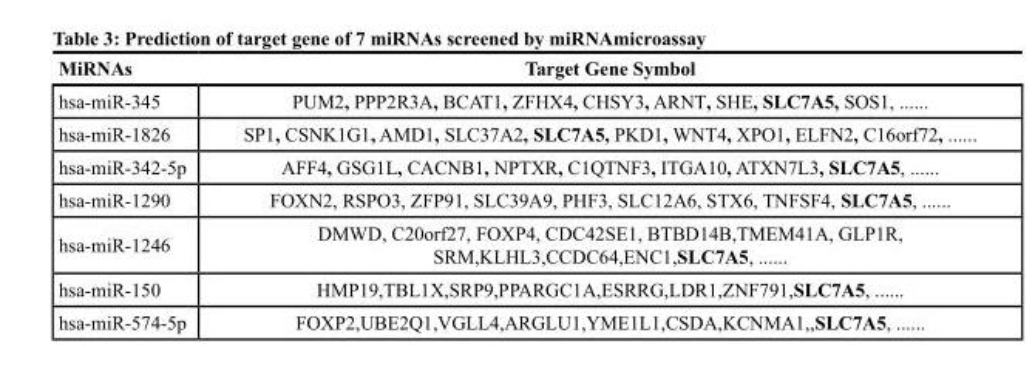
<table><thead><tr><td>MiRNAs</td><td>Target Gene Symbol</td></tr></thead><tbody><tr><td>hsa-miR-345</td><td>PUM2, PPP2R3A, BCAT1, ZFHX4, CHSY3, ARNT, SHE, SLC7A5, SOS1, ......</td></tr><tr><td>hsa-miR-1826</td><td>SP1, CSNK1G1, AMD1, SLC37A2, SLC7A5, PKD1, WNT4, XPO1, ELFN2, C16orf72, ......</td></tr><tr><td>hsa-miR-342-5p</td><td>AFF4, GSG1L, CACNB1, NPTXR, C1QTNF3, ITGA10, ATXN7L3, SLC7A5, ......</td></tr><tr><td>hsa-miR-1290</td><td>FOXN2, RSPO3, ZFP91, SLC39A9, PHF3, SLC12A6, STX6, TNFSF4, SLC7A5, ......</td></tr><tr><td>hsa-miR-1246</td><td>DMWD, C20orf27, FOXP4, CDC42SE1, BTBD14B,TMEM41A, GLP1R, SRM,KLHL3,CCDC64,ENC1,SLC7A5, ......</td></tr><tr><td>hsa-miR-150</td><td>HMP19,TBL1X,SRP9,PPARGC1A,ESRRG,LDR1,ZNF791,SLC7A5, ......</td></tr><tr><td>hsa-miR-574-5p</td><td>FOXP2,UBE2Q1,VGLL4,ARGLU1,YME1L1,CSDA,KCNMA1,,SLC7A5, ......</td></tr></tbody></table>